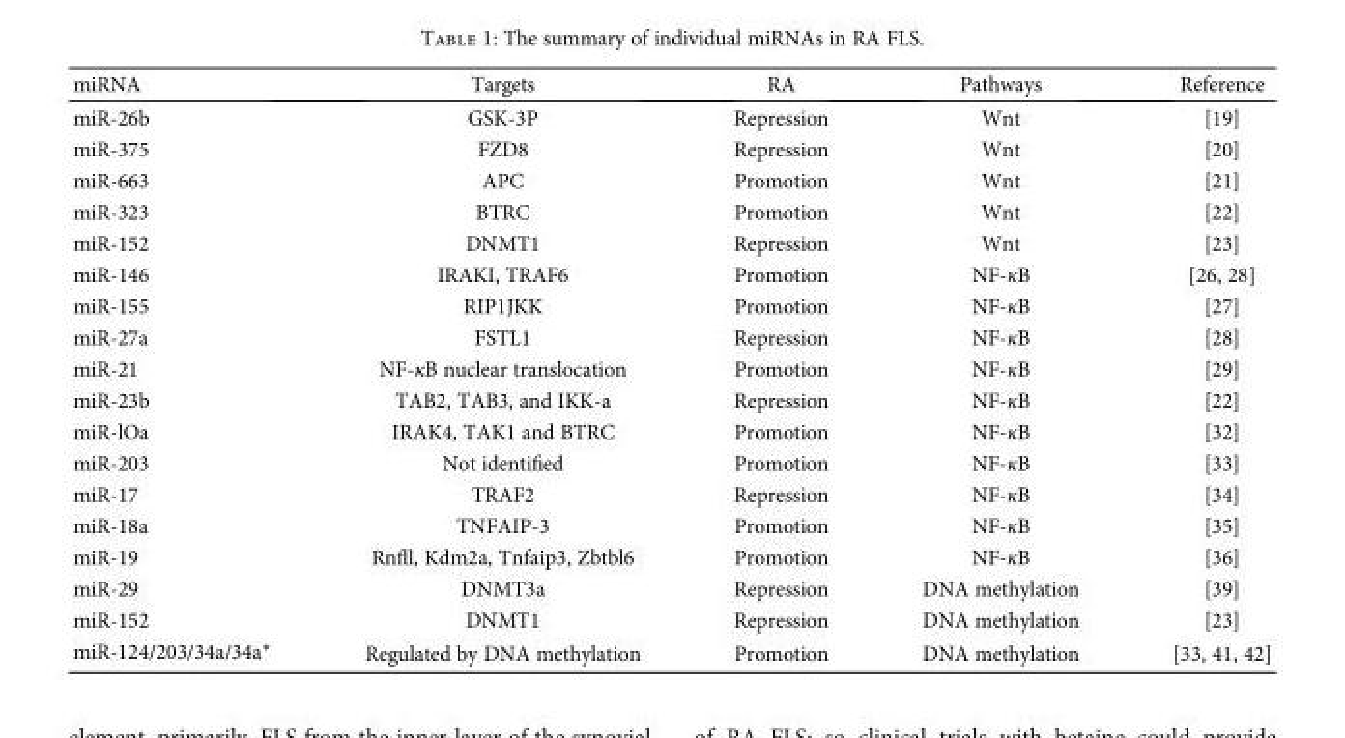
<table><thead><tr><td>miRNA</td><td>Targets</td><td>RA</td><td>Pathways</td><td>Reference</td></tr></thead><tbody><tr><td>miR-26b</td><td>GSK-3P</td><td>Repression</td><td>Wnt</td><td>[19]</td></tr><tr><td>miR-375</td><td>FZD8</td><td>Repression</td><td>Wnt</td><td>[20]</td></tr><tr><td>miR-663</td><td>APC</td><td>Promotion</td><td>Wnt</td><td>[21]</td></tr><tr><td>miR-323</td><td>BTRC</td><td>Promotion</td><td>Wnt</td><td>[22]</td></tr><tr><td>miR-152</td><td>DNMT1</td><td>Repression</td><td>Wnt</td><td>[23]</td></tr><tr><td>miR-146</td><td>IRAKI, TRAF6</td><td>Promotion</td><td>NF-κB</td><td>[26, 28]</td></tr><tr><td>miR-155</td><td>RIP1JKK</td><td>Promotion</td><td>NF-κB</td><td>[27]</td></tr><tr><td>miR-27a</td><td>FSTL1</td><td>Repression</td><td>NF-κB</td><td>[28]</td></tr><tr><td>miR-21</td><td>NF-κB nuclear translocation</td><td>Promotion</td><td>NF-κB</td><td>[29]</td></tr><tr><td>miR-23b</td><td>TAB2, TAB3, and IKK-a</td><td>Repression</td><td>NF-κB</td><td>[22]</td></tr><tr><td>miR-lOa</td><td>IRAK4, TAK1 and BTRC</td><td>Promotion</td><td>NF-κB</td><td>[32]</td></tr><tr><td>miR-203</td><td>Not identified</td><td>Promotion</td><td>NF-κB</td><td>[33]</td></tr><tr><td>miR-17</td><td>TRAF2</td><td>Repression</td><td>NF-κB</td><td>[34]</td></tr><tr><td>miR-18a</td><td>TNFAIP-3</td><td>Promotion</td><td>NF-κB</td><td>[35]</td></tr><tr><td>miR-19</td><td>Rnfll, Kdm2a, Tnfaip3, Zbtbl6</td><td>Promotion</td><td>NF-κB</td><td>[36]</td></tr><tr><td>miR-29</td><td>DNMT3a</td><td>Repression</td><td>DNA methylation</td><td>[39]</td></tr><tr><td>miR-152</td><td>DNMT1</td><td>Repression</td><td>DNA methylation</td><td>[23]</td></tr><tr><td>miR-124/203/34a/34a∗</td><td>Regulated by DNA methylation</td><td>Promotion</td><td>DNA methylation</td><td>[33, 41, 42]</td></tr></tbody></table>